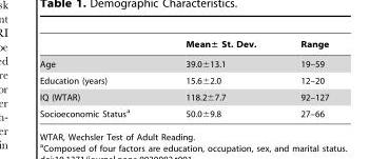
<table><thead><tr><td></td><td>Mean± St. Dev.</td><td>Range</td></tr></thead><tbody><tr><td>Age</td><td>39.0±13.1</td><td>19–59</td></tr><tr><td>Education (years)</td><td>15.6±2.0</td><td>12–20</td></tr><tr><td>IQ (WTAR)</td><td>118.2±7.7</td><td>92–127</td></tr><tr><td>Socioeconomic Status<sup>a</sup></td><td>50.0±9.8</td><td>27–66</td></tr></tbody></table>